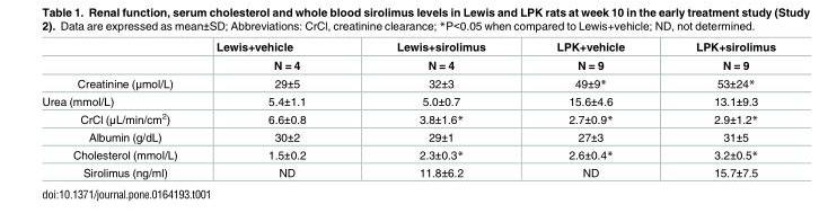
<table><thead><tr><td rowspan="2"></td><td rowspan="2">Lewis+vehicle N = 4</td><td rowspan="2">Lewis+sirolimus N = 4</td><td rowspan="2">LPK+vehicle N = 9</td><td rowspan="2">LPK+sirolimus N = 9</td></tr><tr></tr></thead><tbody><tr><td>Creatinine (μmol/L)</td><td>29±5</td><td>32±3</td><td>49±9*</td><td>53±24*</td></tr><tr><td>Urea (mmol/L)</td><td>5.4±1.1</td><td>5.0±0.7</td><td>15.6±4.6</td><td>13.1±9.3</td></tr><tr><td>CrCl (μL/min/cm<sup>2</sup>)</td><td>6.6±0.8</td><td>3.8±1.6*</td><td>2.7±0.9*</td><td>2.9±1.2*</td></tr><tr><td>Albumin (g/dL)</td><td>30±2</td><td>29±1</td><td>27±3</td><td>31±5</td></tr><tr><td>Cholesterol (mmol/L)</td><td>1.5±0.2</td><td>2.3±0.3*</td><td>2.6±0.4*</td><td>3.2±0.5*</td></tr><tr><td>Sirolimus (ng/ml)</td><td>ND</td><td>11.8±6.2</td><td>ND</td><td>15.7±7.5</td></tr></tbody></table>